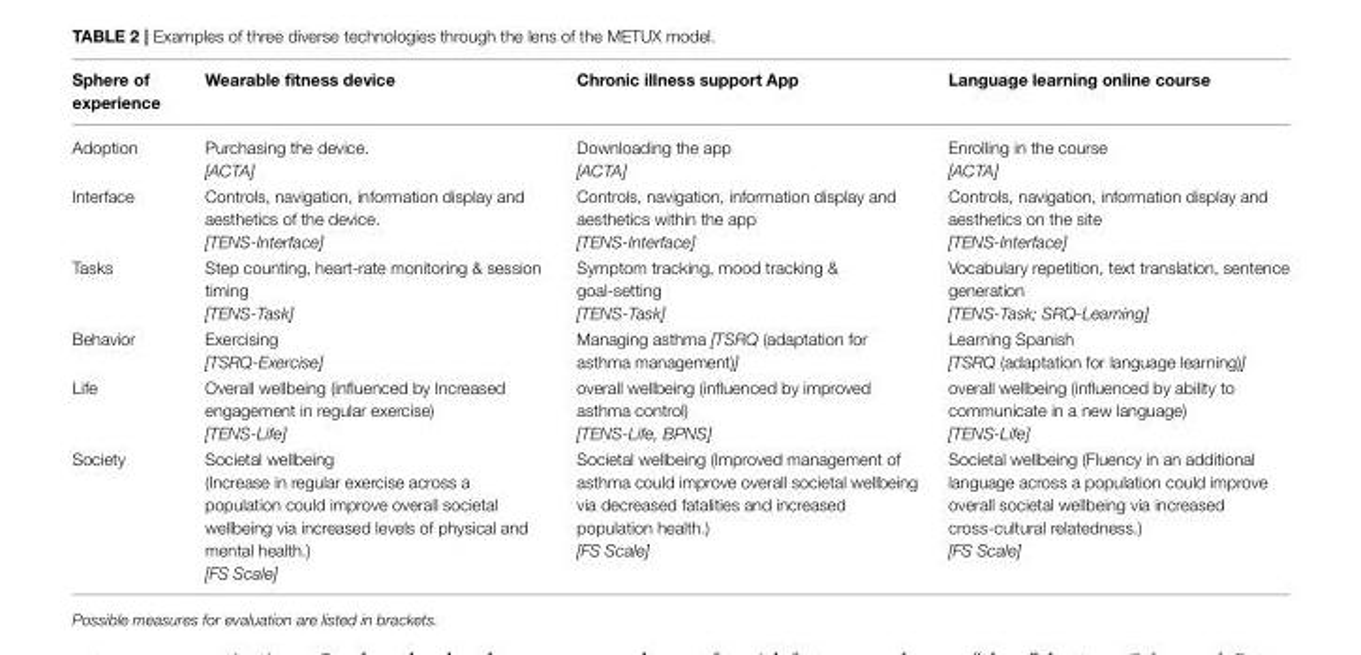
<table><thead><tr><td>Sphere of experience</td><td>Wearable fitness device</td><td>Chronic illness support App</td><td>Language learning online course</td></tr></thead><tbody><tr><td>Adoption</td><td>Purchasing the device. [ACTA]</td><td>Downloading the app [ACTA]</td><td>Enrolling in the course [ACTA]</td></tr><tr><td>Interface</td><td>Controls, navigation, information display and aesthetics of the device. [TENS-Interface]</td><td>Controls, navigation, information display and aesthetics within the app [TENS-Interface]</td><td>Controls, navigation, information display and aesthetics on the site [TENS-Interface]</td></tr><tr><td>Tasks</td><td>Step counting, heart-rate monitoring &amp; session timing [TENS-Task]</td><td>Symptom tracking, mood tracking &amp; goal-setting [TENS-Task]</td><td>Vocabulary repetition, text translation, sentence generation [TENS-Task; SRQ-Learning]</td></tr><tr><td>Behavior</td><td>Exercising [TSRQ-Exercise]</td><td>Managing asthma [TSRQ (adaptation for asthma management)]</td><td>Learning Spanish [TSRQ (adaptation for language learning)]</td></tr><tr><td>Life</td><td>Overall wellbeing (influenced by Increased engagement in regular exercise) [TENS-Life]</td><td>overall wellbeing (influenced by improved asthma control) [TENS-Life, BPNS]</td><td>overall wellbeing (influenced by ability to communicate in a new language) [TENS-Life]</td></tr><tr><td>Society</td><td>Societal wellbeing (Increase in regular exercise across a population could improve overall societal wellbeing via increased levels of physical and mental health.) [FS Scale]</td><td>Societal wellbeing (Improved management of asthma could improve overall societal wellbeing via decreased fatalities and increased population health.) [FS Scale]</td><td>Societal wellbeing (Fluency in an additional language across a population could improve overall societal wellbeing via increased cross-cultural relatedness.) [FS Scale]</td></tr></tbody></table>